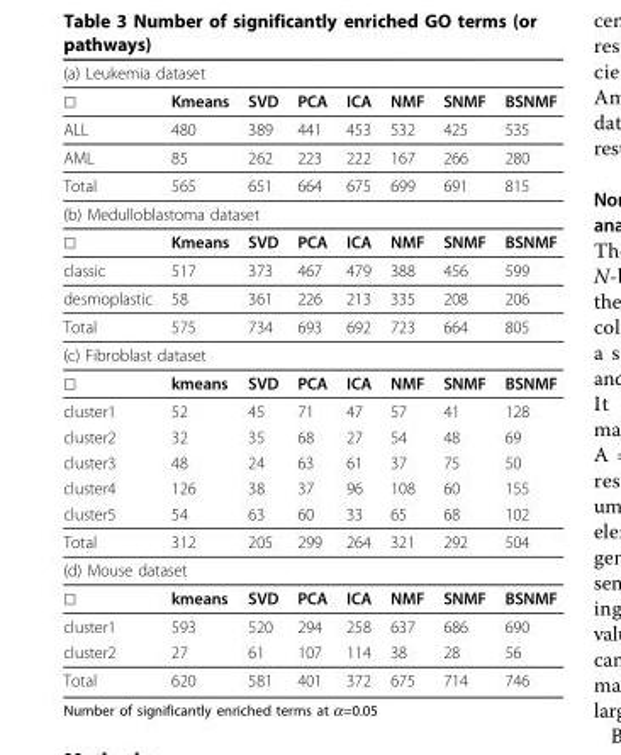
<table><thead><tr><td colspan="8">(a) Leukemia dataset</td></tr><tr><td>☐</td><td>Kmeans</td><td>SVD</td><td>PCA</td><td>ICA</td><td>NMF</td><td>SNMF</td><td>BSNMF</td></tr></thead><tbody><tr><td>ALL</td><td>480</td><td>389</td><td>441</td><td>453</td><td>532</td><td>425</td><td>535</td></tr><tr><td>AML</td><td>85</td><td>262</td><td>223</td><td>222</td><td>167</td><td>266</td><td>280</td></tr><tr><td>Total</td><td>565</td><td>651</td><td>664</td><td>675</td><td>699</td><td>691</td><td>815</td></tr><tr><td colspan="8">(b) Medulloblastoma dataset</td></tr><tr><td>☐</td><td>Kmeans</td><td>SVD</td><td>PCA</td><td>ICA</td><td>NMF</td><td>SNMF</td><td>BSNMF</td></tr><tr><td>classic</td><td>517</td><td>373</td><td>467</td><td>479</td><td>388</td><td>456</td><td>599</td></tr><tr><td>desmoplastic</td><td>58</td><td>361</td><td>226</td><td>213</td><td>335</td><td>208</td><td>206</td></tr><tr><td>Total</td><td>575</td><td>734</td><td>693</td><td>692</td><td>723</td><td>664</td><td>805</td></tr><tr><td colspan="8">(c) Fibroblast dataset</td></tr><tr><td>☐</td><td>kmeans</td><td>SVD</td><td>PCA</td><td>ICA</td><td>NMF</td><td>SNMF</td><td>BSNMF</td></tr><tr><td>cluster1</td><td>52</td><td>45</td><td>71</td><td>47</td><td>57</td><td>41</td><td>128</td></tr><tr><td>cluster2</td><td>32</td><td>35</td><td>68</td><td>27</td><td>54</td><td>48</td><td>69</td></tr><tr><td>cluster3</td><td>48</td><td>24</td><td>63</td><td>61</td><td>37</td><td>75</td><td>50</td></tr><tr><td>cluster4</td><td>126</td><td>38</td><td>37</td><td>96</td><td>108</td><td>60</td><td>155</td></tr><tr><td>cluster5</td><td>54</td><td>63</td><td>60</td><td>33</td><td>65</td><td>68</td><td>102</td></tr><tr><td>Total</td><td>312</td><td>205</td><td>299</td><td>264</td><td>321</td><td>292</td><td>504</td></tr><tr><td colspan="8">(d) Mouse dataset</td></tr><tr><td>☐</td><td>kmeans</td><td>SVD</td><td>PCA</td><td>ICA</td><td>NMF</td><td>SNMF</td><td>BSNMF</td></tr><tr><td>cluster1</td><td>593</td><td>520</td><td>294</td><td>258</td><td>637</td><td>686</td><td>690</td></tr><tr><td>cluster2</td><td>27</td><td>61</td><td>107</td><td>114</td><td>38</td><td>28</td><td>56</td></tr><tr><td>Total</td><td>620</td><td>581</td><td>401</td><td>372</td><td>675</td><td>714</td><td>746</td></tr></tbody></table>